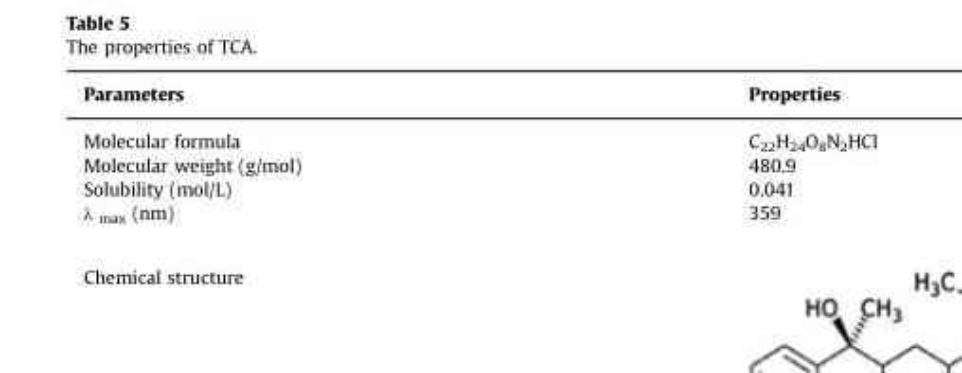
<table><thead><tr><td>Parameters</td><td>Properties</td></tr></thead><tbody><tr><td>Molecular formula</td><td>C<sub>22</sub>H<sub>24</sub>O<sub>8</sub>N<sub>2</sub>HCl</td></tr><tr><td>Molecular weight (g/mol)</td><td>480.9</td></tr><tr><td>Solubility (mol/L)</td><td>0.041</td></tr><tr><td>λ <sub>max</sub> (nm)</td><td>359</td></tr><tr><td>Chemical structure</td><td></td></tr></tbody></table>